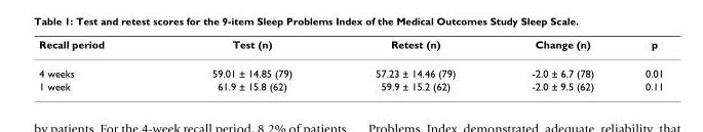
<table><thead><tr><td>Recall period</td><td>Test (n)</td><td>Retest (n)</td><td>Change (n)</td><td>p</td></tr></thead><tbody><tr><td>4 weeks</td><td>59.01 ± 14.85 (79)</td><td>57.23 ± 14.46 (79)</td><td>-2.0 ± 6.7 (78)</td><td>0.01</td></tr><tr><td>1 week</td><td>61.9 ± 15.8 (62)</td><td>59.9 ± 15.2 (62)</td><td>-2.0 ± 9.5 (62)</td><td>0.11</td></tr></tbody></table>